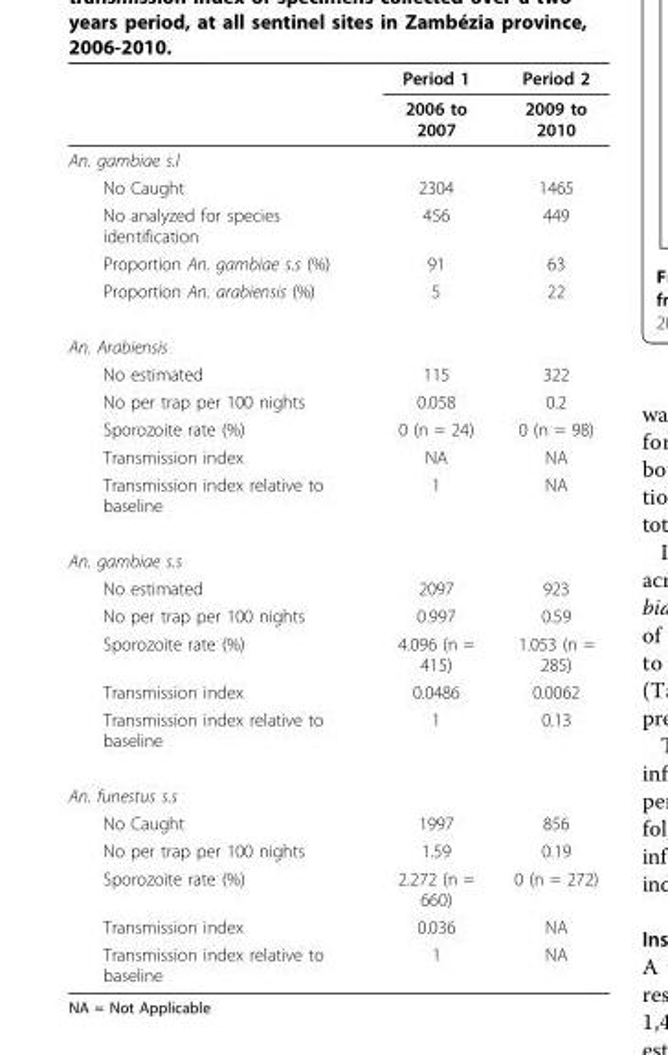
<table><thead><tr><td rowspan="2"></td><td rowspan="2">Period 1 2006 to 2007</td><td rowspan="2">Period 2 2009 to 2010</td></tr><tr></tr></thead><tbody><tr><td colspan="3">An. gambiae s.l</td></tr><tr><td>No Caught</td><td>2304</td><td>1465</td></tr><tr><td>No analyzed for species identification</td><td>456</td><td>449</td></tr><tr><td>Proportion An. gambiae s.s (%)</td><td>91</td><td>63</td></tr><tr><td>Proportion An. arabiensis (%)</td><td>5</td><td>22</td></tr><tr><td colspan="3">An. Arabiensis</td></tr><tr><td>No estimated</td><td>115</td><td>322</td></tr><tr><td>No per trap per 100 nights</td><td>0.058</td><td>0.2</td></tr><tr><td>Sporozoite rate (%)</td><td>0 (n = 24)</td><td>0 (n = 98)</td></tr><tr><td>Transmission index</td><td>NA</td><td>NA</td></tr><tr><td>Transmission index relative to baseline</td><td>1</td><td>NA</td></tr><tr><td colspan="3">An. gambiae s.s</td></tr><tr><td>No estimated</td><td>2097</td><td>923</td></tr><tr><td>No per trap per 100 nights</td><td>0.997</td><td>0.59</td></tr><tr><td>Sporozoite rate (%)</td><td>4.096 (n = 415)</td><td>1.053 (n = 285)</td></tr><tr><td>Transmission index</td><td>0.0486</td><td>0.0062</td></tr><tr><td>Transmission index relative to baseline</td><td>1</td><td>0.13</td></tr><tr><td colspan="3">An. funestus s.s</td></tr><tr><td>No Caught</td><td>1997</td><td>856</td></tr><tr><td>No per trap per 100 nights</td><td>1.59</td><td>0.19</td></tr><tr><td>Sporozoite rate (%)</td><td>2.272 (n = 660)</td><td>0 (n = 272)</td></tr><tr><td>Transmission index</td><td>0.036</td><td>NA</td></tr><tr><td>Transmission index relative to baseline</td><td>1</td><td>NA</td></tr></tbody></table>